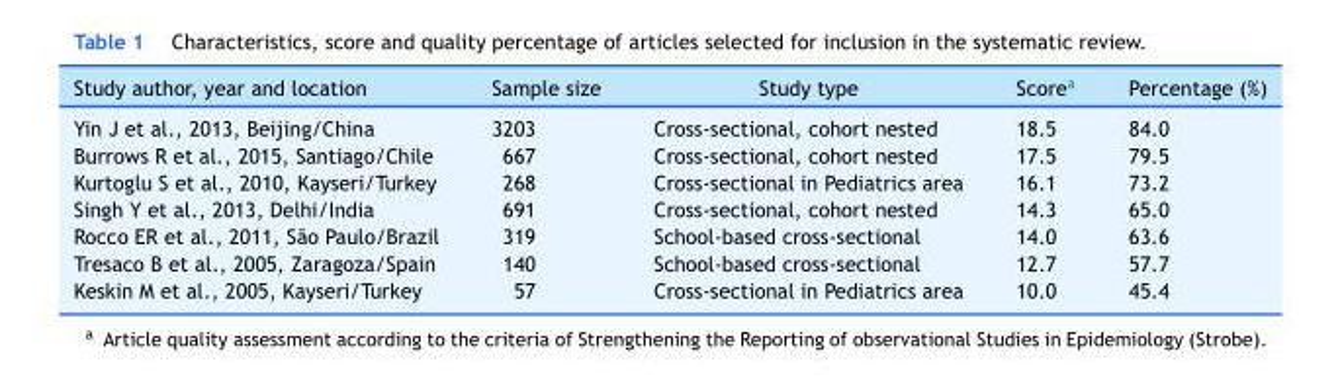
<table><thead><tr><td>Study author, year and location</td><td>Sample size</td><td>Study type</td><td>Score<sup>a</sup></td><td>Percentage (%)</td></tr></thead><tbody><tr><td>Yin J et al., 2013, Beijing/China</td><td>3203</td><td>Cross-sectional, cohort nested</td><td>18.5</td><td>84.0</td></tr><tr><td>Burrows R et al., 2015, Santiago/Chile</td><td>667</td><td>Cross-sectional, cohort nested</td><td>17.5</td><td>79.5</td></tr><tr><td>Kurtoglu S et al., 2010, Kayseri/Turkey</td><td>268</td><td>Cross-sectional in Pediatrics area</td><td>16.1</td><td>73.2</td></tr><tr><td>Singh Y et al., 2013, Delhi/India</td><td>691</td><td>Cross-sectional, cohort nested</td><td>14.3</td><td>65.0</td></tr><tr><td>Rocco ER et al., 2011, São Paulo/Brazil</td><td>319</td><td>School-based cross-sectional</td><td>14.0</td><td>63.6</td></tr><tr><td>Tresaco B et al., 2005, Zaragoza/Spain</td><td>140</td><td>School-based cross-sectional</td><td>12.7</td><td>57.7</td></tr><tr><td>Keskin M et al., 2005, Kayseri/Turkey</td><td>57</td><td>Cross-sectional in Pediatrics area</td><td>10.0</td><td>45.4</td></tr></tbody></table>